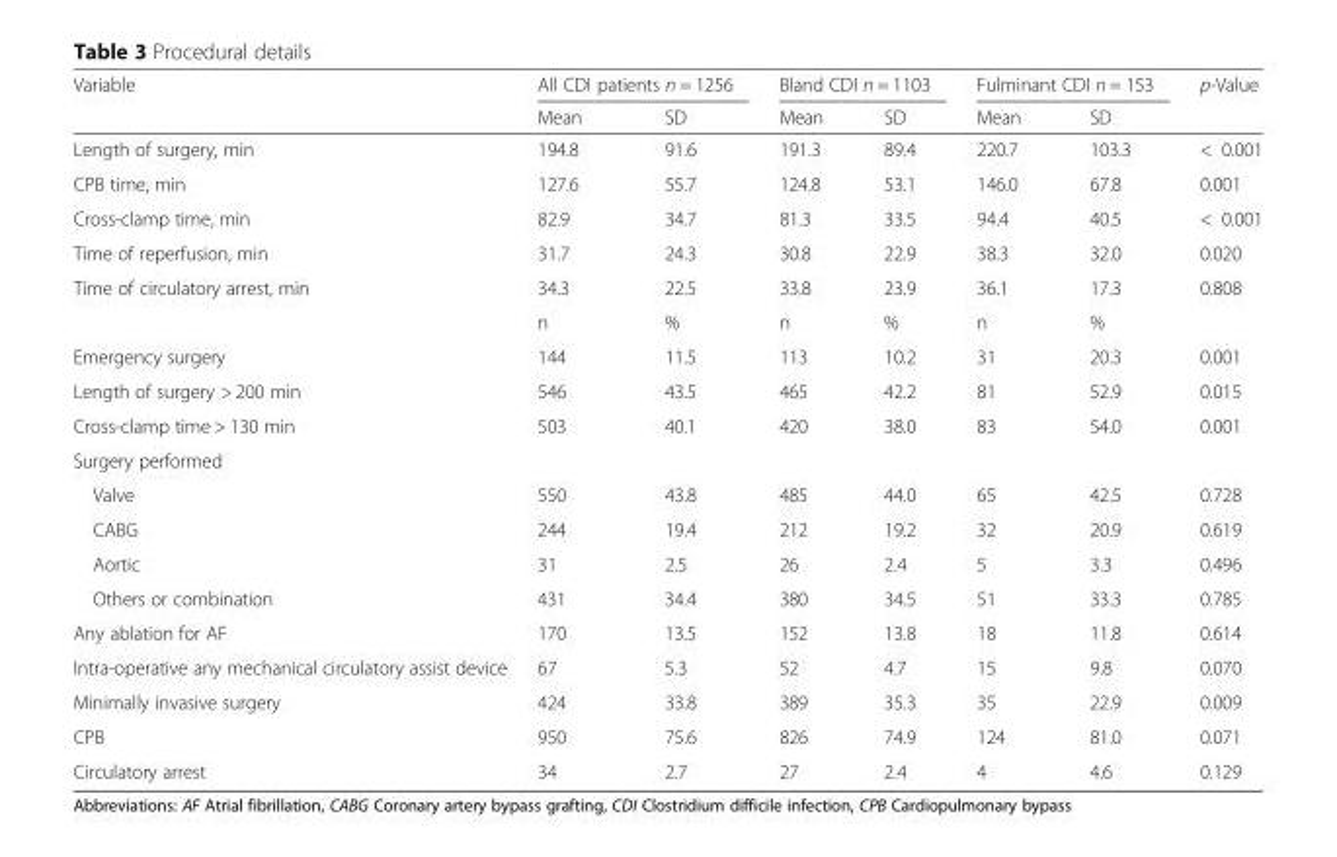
<table><thead><tr><td rowspan="2">Variable</td><td colspan="2">All CDI patients n = 1256</td><td colspan="2">Bland CDI n = 1103</td><td colspan="2">Fulminant CDI n = 153</td><td rowspan="2">p-Value</td></tr><tr><td>Mean</td><td>SD</td><td>Mean</td><td>SD</td><td>Mean</td><td>SD</td></tr></thead><tbody><tr><td>Length of surgery, min</td><td>194.8</td><td>91.6</td><td>191.3</td><td>89.4</td><td>220.7</td><td>103.3</td><td>&lt; 0.001</td></tr><tr><td>CPB time, min</td><td>127.6</td><td>55.7</td><td>124.8</td><td>53.1</td><td>146.0</td><td>67.8</td><td>0.001</td></tr><tr><td>Cross-clamp time, min</td><td>82.9</td><td>34.7</td><td>81.3</td><td>33.5</td><td>94.4</td><td>40.5</td><td>&lt; 0.001</td></tr><tr><td>Time of reperfusion, min</td><td>31.7</td><td>24.3</td><td>30.8</td><td>22.9</td><td>38.3</td><td>32.0</td><td>0.020</td></tr><tr><td rowspan="2">Time of circulatory arrest, min</td><td>34.3</td><td>22.5</td><td>33.8</td><td>23.9</td><td>36.1</td><td>17.3</td><td>0.808</td></tr><tr><td>n</td><td>%</td><td>n</td><td>%</td><td>n</td><td>%</td><td></td></tr><tr><td>Emergency surgery</td><td>144</td><td>11.5</td><td>113</td><td>10.2</td><td>31</td><td>20.3</td><td>0.001</td></tr><tr><td>Length of surgery &gt; 200 min</td><td>546</td><td>43.5</td><td>465</td><td>42.2</td><td>81</td><td>52.9</td><td>0.015</td></tr><tr><td>Cross-clamp time &gt; 130 min</td><td>503</td><td>40.1</td><td>420</td><td>38.0</td><td>83</td><td>54.0</td><td>0.001</td></tr><tr><td colspan="8">Surgery performed</td></tr><tr><td>Valve</td><td>550</td><td>43.8</td><td>485</td><td>44.0</td><td>65</td><td>42.5</td><td>0.728</td></tr><tr><td>CABG</td><td>244</td><td>19.4</td><td>212</td><td>19.2</td><td>32</td><td>20.9</td><td>0.619</td></tr><tr><td>Aortic</td><td>31</td><td>2.5</td><td>26</td><td>2.4</td><td>5</td><td>3.3</td><td>0.496</td></tr><tr><td>Others or combination</td><td>431</td><td>34.4</td><td>380</td><td>34.5</td><td>51</td><td>33.3</td><td>0.785</td></tr><tr><td>Any ablation for AF</td><td>170</td><td>13.5</td><td>152</td><td>13.8</td><td>18</td><td>11.8</td><td>0.614</td></tr><tr><td>Intra-operative any mechanical circulatory assist device</td><td>67</td><td>5.3</td><td>52</td><td>4.7</td><td>15</td><td>9.8</td><td>0.070</td></tr><tr><td>Minimally invasive surgery</td><td>424</td><td>33.8</td><td>389</td><td>35.3</td><td>35</td><td>22.9</td><td>0.009</td></tr><tr><td>CPB</td><td>950</td><td>75.6</td><td>826</td><td>74.9</td><td>124</td><td>81.0</td><td>0.071</td></tr><tr><td>Circulatory arrest</td><td>34</td><td>2.7</td><td>27</td><td>2.4</td><td>4</td><td>4.6</td><td>0.129</td></tr></tbody></table>